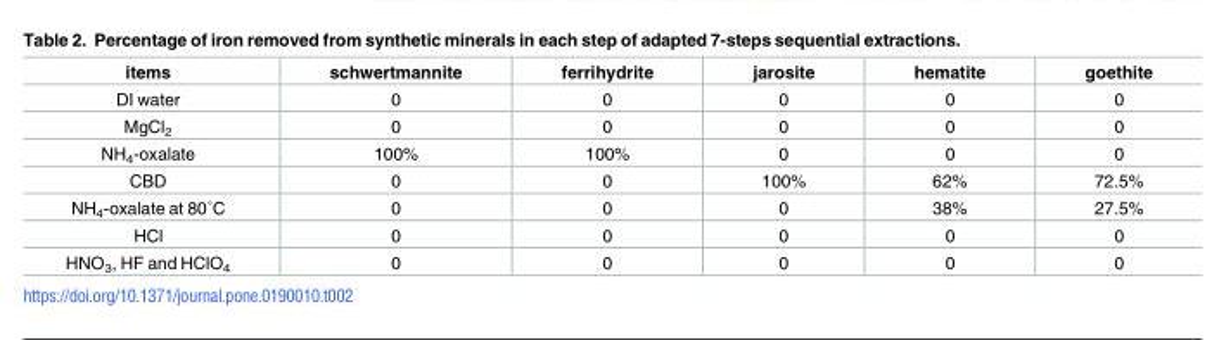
<table><thead><tr><td>items</td><td>schwertmannite</td><td>ferrihydrite</td><td>jarosite</td><td>hematite</td><td>goethite</td></tr></thead><tbody><tr><td>DI water</td><td>0</td><td>0</td><td>0</td><td>0</td><td>0</td></tr><tr><td>MgCl<sub>2</sub></td><td>0</td><td>0</td><td>0</td><td>0</td><td>0</td></tr><tr><td>NH<sub>4</sub>-oxalate</td><td>100%</td><td>100%</td><td>0</td><td>0</td><td>0</td></tr><tr><td>CBD</td><td>0</td><td>0</td><td>100%</td><td>62%</td><td>72.5%</td></tr><tr><td>NH4-oxalate at 80˚C</td><td>0</td><td>0</td><td>0</td><td>38%</td><td>27.5%</td></tr><tr><td>HCl</td><td>0</td><td>0</td><td>0</td><td>0</td><td>0</td></tr><tr><td>HNO<sub>3</sub>, HF and HClO<sub>4</sub></td><td>0</td><td>0</td><td>0</td><td>0</td><td>0</td></tr></tbody></table>